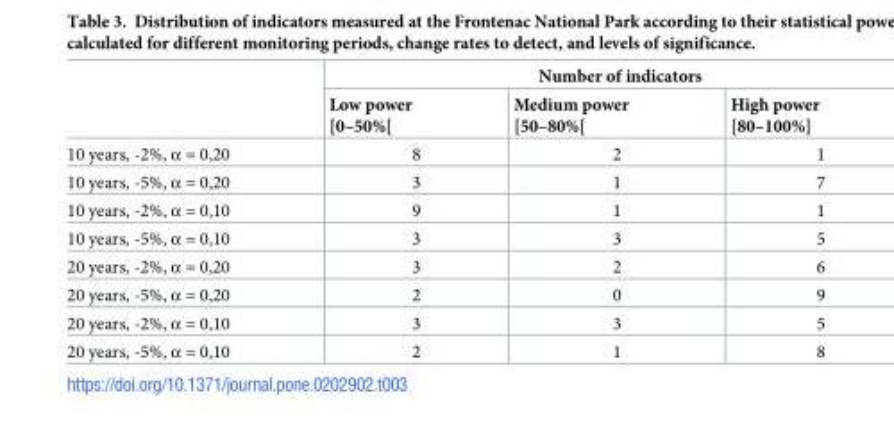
<table><thead><tr><td rowspan="2"></td><td colspan="3">Number of indicators</td></tr><tr><td>Low power [0–50%[</td><td>Medium power [50–80%[</td><td>High power [80–100%]</td></tr></thead><tbody><tr><td>10 years, -2%, α = 0,20</td><td>8</td><td>2</td><td>1</td></tr><tr><td>10 years, -5%, α = 0,20</td><td>3</td><td>1</td><td>7</td></tr><tr><td>10 years, -2%, α = 0,10</td><td>9</td><td>1</td><td>1</td></tr><tr><td>10 years, -5%, α = 0,10</td><td>3</td><td>3</td><td>5</td></tr><tr><td>20 years, -2%, α = 0,20</td><td>3</td><td>2</td><td>6</td></tr><tr><td>20 years, -5%, α = 0,20</td><td>2</td><td>0</td><td>9</td></tr><tr><td>20 years, -2%, α = 0,10</td><td>3</td><td>3</td><td>5</td></tr><tr><td>20 years, -5%, α = 0,10</td><td>2</td><td>1</td><td>8</td></tr></tbody></table>